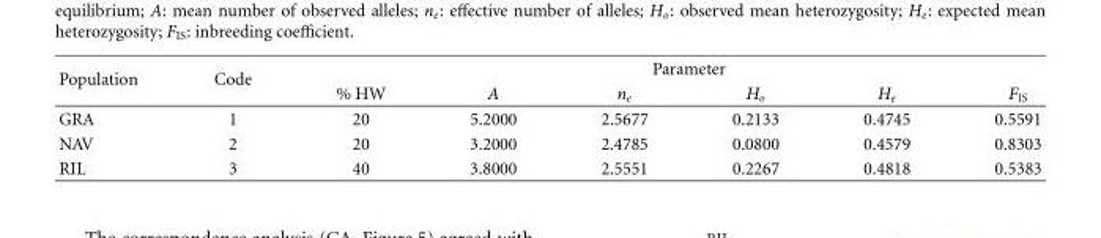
<table><thead><tr><td rowspan="2">Population</td><td rowspan="2">Code</td><td colspan="6">Parameter</td></tr><tr><td>% HW</td><td>A</td><td>n<sub>e</sub></td><td>H<sub>o</sub></td><td>H<sub>e</sub></td><td>F<sub>IS</sub></td></tr></thead><tbody><tr><td>GRA</td><td>1</td><td>20</td><td>5.2000</td><td>2.5677</td><td>0.2133</td><td>0.4745</td><td>0.5591</td></tr><tr><td>NAV</td><td>2</td><td>20</td><td>3.2000</td><td>2.4785</td><td>0.0800</td><td>0.4579</td><td>0.8303</td></tr><tr><td>RIL</td><td>3</td><td>40</td><td>3.8000</td><td>2.5551</td><td>0.2267</td><td>0.4818</td><td>0.5383</td></tr></tbody></table>